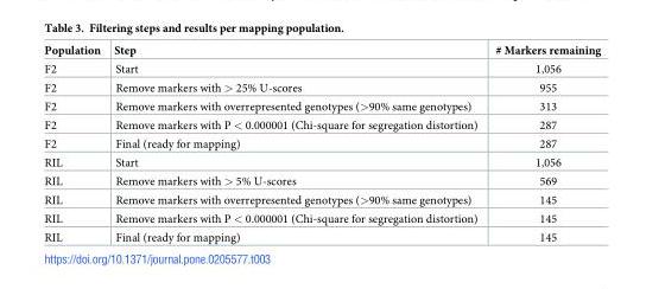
<table><thead><tr><td>Population</td><td>Step</td><td># Markers remaining</td></tr></thead><tbody><tr><td>F2</td><td>Start</td><td>1,056</td></tr><tr><td>F2</td><td>Remove markers with &gt; 25% U-scores</td><td>955</td></tr><tr><td>F2</td><td>Remove markers with overrepresented genotypes (&gt;90% same genotypes)</td><td>313</td></tr><tr><td>F2</td><td>Remove markers with P &lt; 0.000001 (Chi-square for segregation distortion)</td><td>287</td></tr><tr><td>F2</td><td>Final (ready for mapping)</td><td>287</td></tr><tr><td>RIL</td><td>Start</td><td>1,056</td></tr><tr><td>RIL</td><td>Remove markers with &gt; 5% U-scores</td><td>569</td></tr><tr><td>RIL</td><td>Remove markers with overrepresented genotypes (&gt;90% same genotypes)</td><td>145</td></tr><tr><td>RIL</td><td>Remove markers with P &lt; 0.000001 (Chi-square for segregation distortion)</td><td>145</td></tr><tr><td>RIL</td><td>Final (ready for mapping)</td><td>145</td></tr></tbody></table>